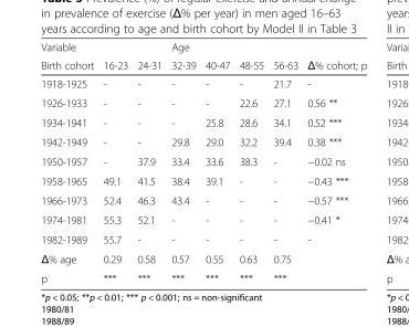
<table><thead><tr><td rowspan="2">Variable Birth cohort</td><td rowspan="2">16-23</td><td rowspan="2">24-31</td><td rowspan="2">Age 32-39</td><td rowspan="2">40-47</td><td rowspan="2">48-55</td><td rowspan="2">56-63</td><td rowspan="2">Δ% cohort; p</td></tr><tr></tr></thead><tbody><tr><td>1918-1925</td><td>-</td><td>-</td><td>-</td><td>-</td><td>-</td><td>21.7</td><td>-</td></tr><tr><td>1926-1933</td><td>-</td><td>-</td><td>-</td><td>-</td><td>22.6</td><td>27.1</td><td>0.56 **</td></tr><tr><td>1934-1941</td><td>-</td><td>-</td><td>-</td><td>25.8</td><td>28.6</td><td>34.1</td><td>0.52 ***</td></tr><tr><td>1942-1949</td><td>-</td><td>-</td><td>29.8</td><td>29.0</td><td>32.2</td><td>39.4</td><td>0.38 ***</td></tr><tr><td>1950-1957</td><td>-</td><td>37.9</td><td>33.4</td><td>33.6</td><td>38.3</td><td>-</td><td>−0.02 ns</td></tr><tr><td>1958-1965</td><td>49.1</td><td>41.5</td><td>38.4</td><td>39.1</td><td>-</td><td>-</td><td>−0.43 ***</td></tr><tr><td>1966-1973</td><td>52.4</td><td>46.3</td><td>43.4</td><td>-</td><td>-</td><td>-</td><td>−0.57 ***</td></tr><tr><td>1974-1981</td><td>55.3</td><td>52.1</td><td>-</td><td>-</td><td>-</td><td>-</td><td>−0.41 *</td></tr><tr><td>1982-1989</td><td>55.7</td><td>-</td><td>-</td><td>-</td><td>-</td><td>-</td><td>-</td></tr><tr><td>Δ% age</td><td>0.29</td><td>0.58</td><td>0.57</td><td>0.55</td><td>0.63</td><td>0.75</td><td></td></tr><tr><td>p</td><td>***</td><td>***</td><td>***</td><td>***</td><td>***</td><td>***</td><td></td></tr></tbody></table>